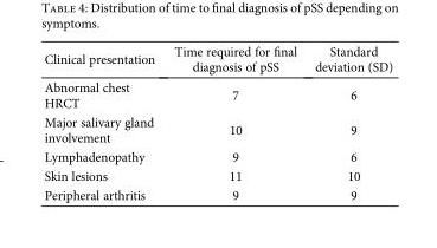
<table><thead><tr><td>Clinical presentation</td><td>Time required for final diagnosis of pSS</td><td>Standard deviation (SD)</td></tr></thead><tbody><tr><td>Abnormal chest HRCT</td><td>7</td><td>6</td></tr><tr><td>Major salivary gland involvement</td><td>10</td><td>9</td></tr><tr><td>Lymphadenopathy</td><td>9</td><td>6</td></tr><tr><td>Skin lesions</td><td>11</td><td>10</td></tr><tr><td>Peripheral arthritis</td><td>9</td><td>9</td></tr></tbody></table>